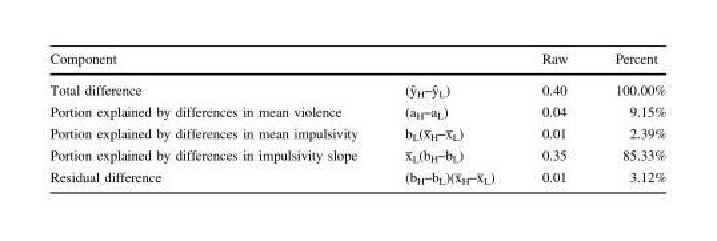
<table><thead><tr><td>Component</td><td></td><td>Raw</td><td>Percent</td></tr></thead><tbody><tr><td>Total difference</td><td>(ŷH–ŷL)</td><td>0.40</td><td>100.00%</td></tr><tr><td>Portion explained by differences in mean violence</td><td>(a<sub>H</sub>–a<sub>L</sub>)</td><td>0.04</td><td>9.15%</td></tr><tr><td>Portion explained by differences in mean impulsivity</td><td>b<sub>L</sub>(x̅<sub>H</sub>–x̅<sub>L</sub>)</td><td>0.01</td><td>2.39%</td></tr><tr><td>Portion explained by differences in impulsivity slope</td><td>x̅<sub>L</sub>(b<sub>H</sub>–b<sub>L</sub>)</td><td>0.35</td><td>85.33%</td></tr><tr><td>Residual difference</td><td>(b<sub>H</sub>–b<sub>L</sub>)(x̅<sub>H</sub>–x̅<sub>L</sub>)</td><td>0.01</td><td>3.12%</td></tr></tbody></table>